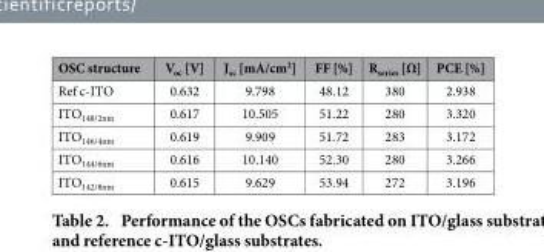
<table><thead><tr><td>OSC structure</td><td>V<sub>oc</sub> [V]</td><td>J<sub>sc</sub> [mA/cm<sup>2</sup>]</td><td>FF [%]</td><td>R<sub>series</sub> [Ω]</td><td>PCE [%]</td></tr></thead><tbody><tr><td>Ref c-ITO</td><td>0.632</td><td>9.798</td><td>48.12</td><td>380</td><td>2.938</td></tr><tr><td>ITO<sub>148/2nm</sub></td><td>0.617</td><td>10.505</td><td>51.22</td><td>280</td><td>3.320</td></tr><tr><td>ITO<sub>146/4nm</sub></td><td>0.619</td><td>9.909</td><td>51.72</td><td>283</td><td>3.172</td></tr><tr><td>ITO<sub>144/6nm</sub></td><td>0.616</td><td>10.140</td><td>52.30</td><td>280</td><td>3.266</td></tr><tr><td>ITO<sub>142/8nm</sub></td><td>0.615</td><td>9.629</td><td>53.94</td><td>272</td><td>3.196</td></tr></tbody></table>